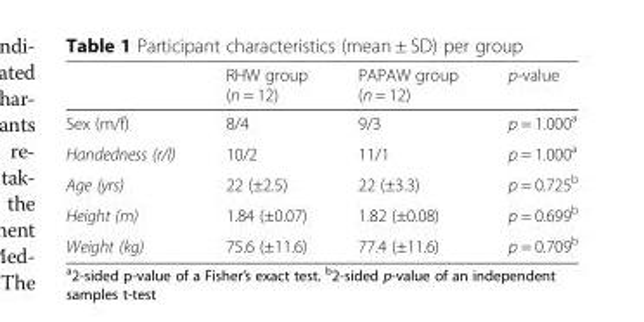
<table><thead><tr><td></td><td>RHW group (n = 12)</td><td>PAPAW group (n = 12)</td><td>p-value</td></tr></thead><tbody><tr><td>Sex (m/f)</td><td>8/4</td><td>9/3</td><td>p = 1.000<sup>a</sup></td></tr><tr><td>Handedness (r/l)</td><td>10/2</td><td>11/1</td><td>p = 1.000<sup>a</sup></td></tr><tr><td>Age (yrs)</td><td>22 (±2.5)</td><td>22 (±3.3)</td><td>p = 0.725<sup>b</sup></td></tr><tr><td>Height (m)</td><td>1.84 (±0.07)</td><td>1.82 (±0.08)</td><td>p = 0.699<sup>b</sup></td></tr><tr><td>Weight (kg)</td><td>75.6 (±11.6)</td><td>77.4 (±11.6)</td><td>p = 0.709<sup>b</sup></td></tr></tbody></table>